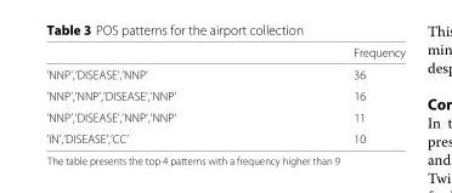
<table><thead><tr><td></td><td>Frequency</td></tr></thead><tbody><tr><td>’NNP’,’DISEASE’,’NNP’</td><td>36</td></tr><tr><td>’NNP’,’NNP’,’DISEASE’,’NNP’</td><td>16</td></tr><tr><td>’NNP’,’DISEASE’,’NNP’,’NNP’</td><td>11</td></tr><tr><td>’IN’,’DISEASE’,’CC’</td><td>10</td></tr></tbody></table>